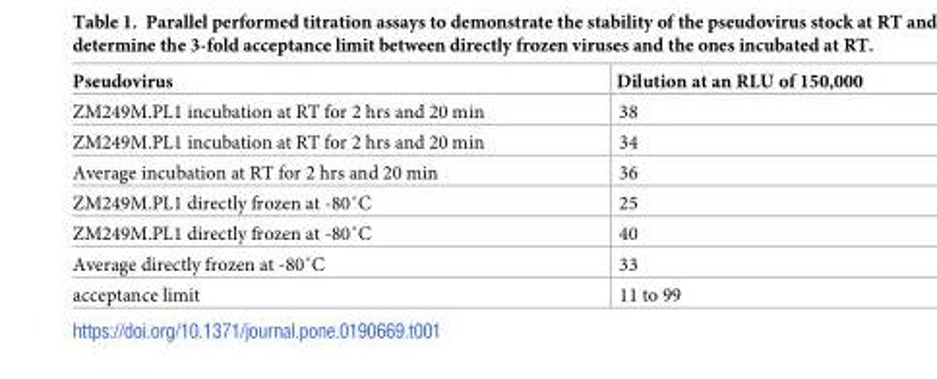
<table><thead><tr><td>Pseudovirus</td><td>Dilution at an RLU of 150,000</td></tr></thead><tbody><tr><td>ZM249M.PL1 incubation at RT for 2 hrs and 20 min</td><td>38</td></tr><tr><td>ZM249M.PL1 incubation at RT for 2 hrs and 20 min</td><td>34</td></tr><tr><td>Average incubation at RT for 2 hrs and 20 min</td><td>36</td></tr><tr><td>ZM249M.PL1 directly frozen at -80˚C</td><td>25</td></tr><tr><td>ZM249M.PL1 directly frozen at -80˚C</td><td>40</td></tr><tr><td>Average directly frozen at -80˚C</td><td>33</td></tr><tr><td>acceptance limit</td><td>11 to 99</td></tr></tbody></table>